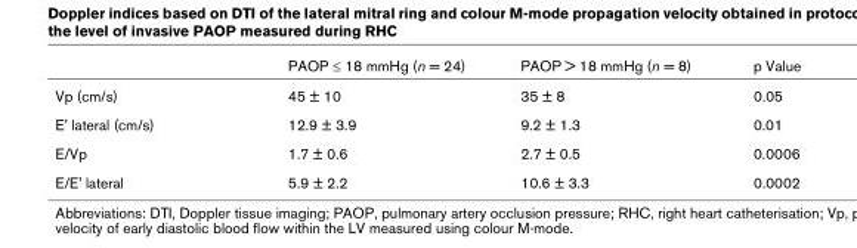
<table><thead><tr><td></td><td>PAOP ≤ 18 mmHg (n = 24)</td><td>PAOP &gt; 18 mmHg (n = 8)</td><td>p Value</td></tr></thead><tbody><tr><td>Vp (cm/s)</td><td>45 ± 10</td><td>35 ± 8</td><td>0.05</td></tr><tr><td>E&#x27; lateral (cm/s)</td><td>12.9 ± 3.9</td><td>9.2 ± 1.3</td><td>0.01</td></tr><tr><td>E/Vp</td><td>1.7 ± 0.6</td><td>2.7 ± 0.5</td><td>0.0006</td></tr><tr><td>E/E&#x27; lateral</td><td>5.9 ± 2.2</td><td>10.6 ± 3.3</td><td>0.0002</td></tr></tbody></table>